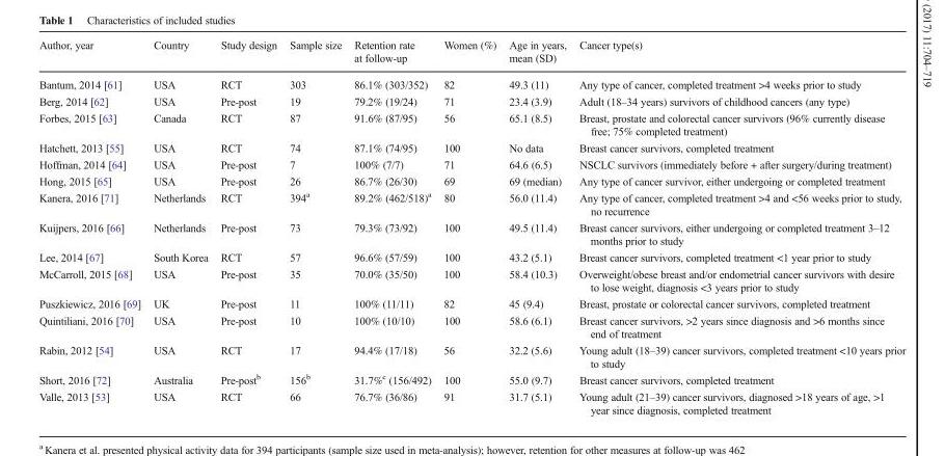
<table><thead><tr><td>Author, year</td><td>Country</td><td>Study design</td><td>Sample size</td><td>Retention rate at follow-up</td><td>Women (%)</td><td>Age in years, mean (SD)</td><td>Cancer type(s)</td></tr></thead><tbody><tr><td>Bantum, 2014 [61]</td><td>USA</td><td>RCT</td><td>303</td><td>86.1% (303/352)</td><td>82</td><td>49.3 (11)</td><td>Any type of cancer, completed treatment &gt;4 weeks prior to study</td></tr><tr><td>Berg, 2014 [62]</td><td>USA</td><td>Pre-post</td><td>19</td><td>79.2% (19/24)</td><td>71</td><td>23.4 (3.9)</td><td>Adult (18–34 years) survivors of childhood cancers (any type)</td></tr><tr><td>Forbes, 2015 [63]</td><td>Canada</td><td>RCT</td><td>87</td><td>91.6% (87/95)</td><td>56</td><td>65.1 (8.5)</td><td>Breast, prostate and colorectal cancer survivors (96% currently disease free; 75% completed treatment)</td></tr><tr><td>Hatchett, 2013 [55]</td><td>USA</td><td>RCT</td><td>74</td><td>87.1% (74/95)</td><td>100</td><td>No data</td><td>Breast cancer survivors, completed treatment</td></tr><tr><td>Hoffman, 2014 [64]</td><td>USA</td><td>Pre-post</td><td>7</td><td>100% (7/7)</td><td>71</td><td>64.6 (6.5)</td><td>NSCLC survivors (immediately before + after surgery/during treatment)</td></tr><tr><td>Hong, 2015 [65]</td><td>USA</td><td>Pre-post</td><td>26</td><td>86.7% (26/30)</td><td>69</td><td>69 (median)</td><td>Any type of cancer survivor, either undergoing or completed treatment</td></tr><tr><td>Kanera, 2016 [71]</td><td>Netherlands</td><td>RCT</td><td>394<sup>a</sup></td><td>89.2% (462/518)<sup>a</sup></td><td>80</td><td>56.0 (11.4)</td><td>Any type of cancer, completed treatment &gt;4 and &lt;56 weeks prior to study, no recurrence</td></tr><tr><td>Kuijpers, 2016 [66]</td><td>Netherlands</td><td>Pre-post</td><td>73</td><td>79.3% (73/92)</td><td>100</td><td>49.5 (11.4)</td><td>Breast cancer survivors, either undergoing or completed treatment 3–12 months prior to study</td></tr><tr><td>Lee, 2014 [67]</td><td>South Korea</td><td>RCT</td><td>57</td><td>96.6% (57/59)</td><td>100</td><td>43.2 (5.1)</td><td>Breast cancer survivors, completed treatment &lt;1 year prior to study</td></tr><tr><td>McCarroll, 2015 [68]</td><td>USA</td><td>Pre-post</td><td>35</td><td>70.0% (35/50)</td><td>100</td><td>58.4 (10.3)</td><td>Overweight/obese breast and/or endometrial cancer survivors with desire to lose weight, diagnosis &lt;3 years prior to study</td></tr><tr><td>Puszkiewicz, 2016 [69]</td><td>UK</td><td>Pre-post</td><td>11</td><td>100% (11/11)</td><td>82</td><td>45 (9.4)</td><td>Breast, prostate or colorectal cancer survivors, completed treatment</td></tr><tr><td>Quintiliani, 2016 [70]</td><td>USA</td><td>Pre-post</td><td>10</td><td>100% (10/10)</td><td>100</td><td>58.6 (6.1)</td><td>Breast cancer survivors, &gt;2 years since diagnosis and &gt;6 months since end of treatment</td></tr><tr><td>Rabin, 2012 [54]</td><td>USA</td><td>RCT</td><td>17</td><td>94.4% (17/18)</td><td>56</td><td>32.2 (5.6)</td><td>Young adult (18–39) cancer survivors, completed treatment &lt;10 years prior to study</td></tr><tr><td>Short, 2016 [72]</td><td>Australia</td><td>Pre-post<sup>b</sup></td><td>156<sup>b</sup></td><td>31.7%<sup>c</sup> (156/492)</td><td>100</td><td>55.0 (9.7)</td><td>Breast cancer survivors, completed treatment</td></tr><tr><td>Valle, 2013 [53]</td><td>USA</td><td>RCT</td><td>66</td><td>76.7% (36/86)</td><td>91</td><td>31.7 (5.1)</td><td>Young adult (21–39) cancer survivors, diagnosed &gt;18 years of age, &gt;1 year since diagnosis, completed treatment</td></tr></tbody></table>